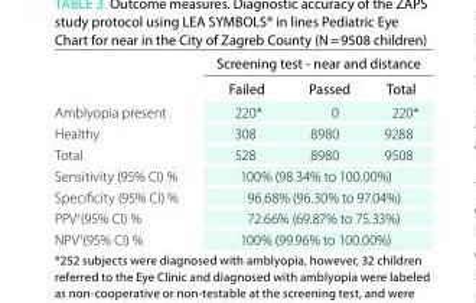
<table><thead><tr><td rowspan="2"></td><td colspan="3">Screening test - near and distance</td></tr><tr><td>Failed</td><td>Passed</td><td>Total</td></tr></thead><tbody><tr><td>Amblyopia present</td><td>220*</td><td>0</td><td>220*</td></tr><tr><td>Healthy</td><td>308</td><td>8980</td><td>9288</td></tr><tr><td>Total</td><td>528</td><td>8980</td><td>9508</td></tr><tr><td>Sensitivity (95% CI) %</td><td colspan="3">100% (98.34% to 100.00%)</td></tr><tr><td>Specificity (95% CI) %</td><td colspan="3">96.68% (96.30% to 97.04%)</td></tr><tr><td>PPV<sup>†</sup>(95% CI) %</td><td colspan="3">72.66% (69.87% to 75.33%)</td></tr><tr><td>NPV<sup>†</sup>(95% CI) %</td><td colspan="3">100% (99.96% to 100.00%)</td></tr></tbody></table>